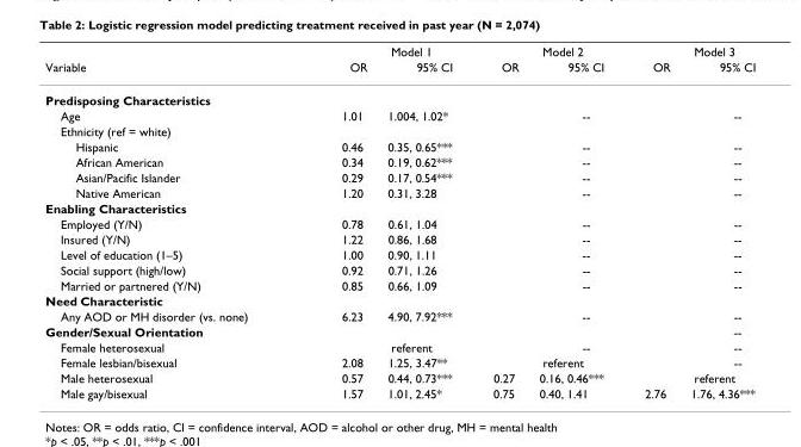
<table><thead><tr><td rowspan="2">Variable</td><td colspan="2">Model 1</td><td colspan="2">Model 2</td><td colspan="2">Model 3</td></tr><tr><td>OR</td><td>95% CI</td><td>OR</td><td>95% CI</td><td>OR</td><td>95% CI</td></tr></thead><tbody><tr><td colspan="7">Predisposing Characteristics</td></tr><tr><td>Age</td><td>1.01</td><td>1.004, 1.02*</td><td></td><td>--</td><td></td><td>--</td></tr><tr><td colspan="7">Ethnicity (ref = white)</td></tr><tr><td>Hispanic</td><td>0.46</td><td>0.35, 0.65***</td><td></td><td>--</td><td></td><td>--</td></tr><tr><td>African American</td><td>0.34</td><td>0.19, 0.62***</td><td></td><td>--</td><td></td><td>--</td></tr><tr><td>Asian/Pacific Islander</td><td>0.29</td><td>0.17, 0.54***</td><td></td><td>--</td><td></td><td>--</td></tr><tr><td>Native American</td><td>1.20</td><td>0.31, 3.28</td><td></td><td>--</td><td></td><td>--</td></tr><tr><td colspan="7">Enabling Characteristics</td></tr><tr><td>Employed (Y/N)</td><td>0.78</td><td>0.61, 1.04</td><td></td><td>--</td><td></td><td>--</td></tr><tr><td>Insured (Y/N)</td><td>1.22</td><td>0.86, 1.68</td><td></td><td>--</td><td></td><td>--</td></tr><tr><td>Level of education (1–5)</td><td>1.00</td><td>0.90, 1.11</td><td></td><td>--</td><td></td><td>--</td></tr><tr><td>Social support (high/low)</td><td>0.92</td><td>0.71, 1.26</td><td></td><td>--</td><td></td><td>--</td></tr><tr><td>Married or partnered (Y/N)</td><td>0.85</td><td>0.66, 1.09</td><td></td><td>--</td><td></td><td>--</td></tr><tr><td colspan="7">Need Characteristic</td></tr><tr><td>Any AOD or MH disorder (vs. none)</td><td>6.23</td><td>4.90, 7.92***</td><td></td><td>--</td><td></td><td>--</td></tr><tr><td>Gender/Sexual Orientation</td><td></td><td></td><td></td><td></td><td></td><td>--</td></tr><tr><td>Female heterosexual</td><td colspan="2">referent</td><td></td><td>--</td><td></td><td>--</td></tr><tr><td>Female lesbian/bisexual</td><td>2.08</td><td>1.25, 3.47**</td><td colspan="2">referent</td><td></td><td>--</td></tr><tr><td>Male heterosexual</td><td>0.57</td><td>0.44, 0.73***</td><td>0.27</td><td>0.16, 0.46***</td><td colspan="2">referent</td></tr><tr><td>Male gay/bisexual</td><td>1.57</td><td>1.01, 2.45*</td><td>0.75</td><td>0.40, 1.41</td><td>2.76</td><td>1.76, 4.36***</td></tr></tbody></table>